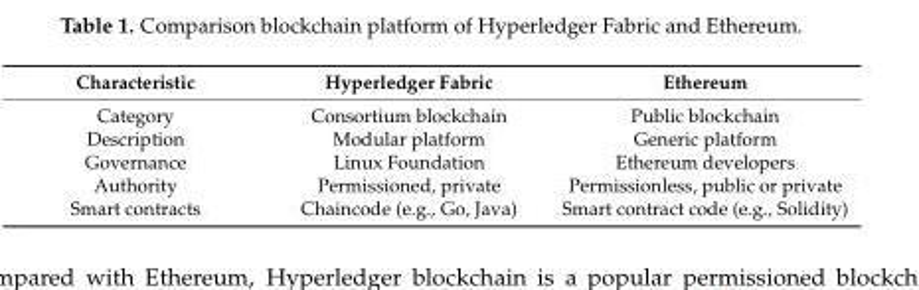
<table><thead><tr><td>Characteristic</td><td>Hyperledger Fabric</td><td>Ethereum</td></tr></thead><tbody><tr><td>Category</td><td>Consortium blockchain</td><td>Public blockchain</td></tr><tr><td>Description</td><td>Modular platform</td><td>Generic platform</td></tr><tr><td>Governance</td><td>Linux Foundation</td><td>Ethereum developers</td></tr><tr><td>Authority</td><td>Permissioned, private</td><td>Permissionless, public or private</td></tr><tr><td>Smart contracts</td><td>Chaincode (e.g., Go, Java)</td><td>Smart contract code (e.g., Solidity)</td></tr></tbody></table>